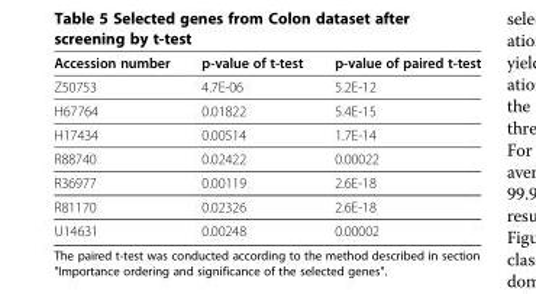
<table><thead><tr><td>Accession number</td><td>p-value of t-test</td><td>p-value of paired t-test</td></tr></thead><tbody><tr><td>Z50753</td><td>4.7E-06</td><td>5.2E-12</td></tr><tr><td>H67764</td><td>0.01822</td><td>5.4E-15</td></tr><tr><td>H17434</td><td>0.00514</td><td>1.7E-14</td></tr><tr><td>R88740</td><td>0.02422</td><td>0.00022</td></tr><tr><td>R36977</td><td>0.00119</td><td>2.6E-18</td></tr><tr><td>R81170</td><td>0.02326</td><td>2.6E-18</td></tr><tr><td>U14631</td><td>0.00248</td><td>0.00002</td></tr></tbody></table>